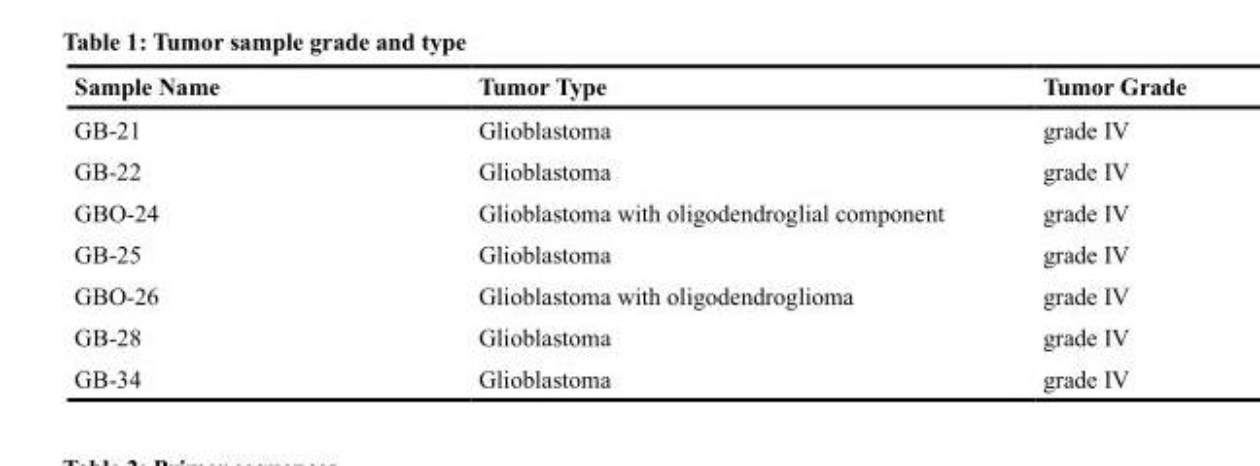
<table><thead><tr><td>Sample Name</td><td>Tumor Type</td><td>Tumor Grade</td></tr></thead><tbody><tr><td>GB-21</td><td>Glioblastoma</td><td>grade IV</td></tr><tr><td>GB-22</td><td>Glioblastoma</td><td>grade IV</td></tr><tr><td>GBO-24</td><td>Glioblastoma with oligodendroglial component</td><td>grade IV</td></tr><tr><td>GB-25</td><td>Glioblastoma</td><td>grade IV</td></tr><tr><td>GBO-26</td><td>Glioblastoma with oligodendroglioma</td><td>grade IV</td></tr><tr><td>GB-28</td><td>Glioblastoma</td><td>grade IV</td></tr><tr><td>GB-34</td><td>Glioblastoma</td><td>grade IV</td></tr></tbody></table>